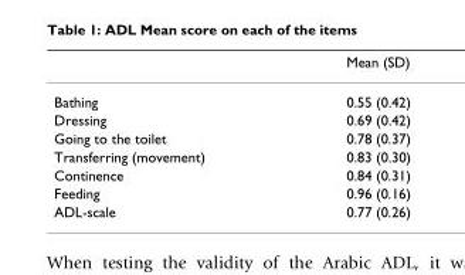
<table><thead><tr><td></td><td>Mean (SD)</td></tr></thead><tbody><tr><td>Bathing</td><td>0.55 (0.42)</td></tr><tr><td>Dressing</td><td>0.69 (0.42)</td></tr><tr><td>Going to the toilet</td><td>0.78 (0.37)</td></tr><tr><td>Transferring (movement)</td><td>0.83 (0.30)</td></tr><tr><td>Continence</td><td>0.84 (0.31)</td></tr><tr><td>Feeding</td><td>0.96 (0.16)</td></tr><tr><td>ADL-scale</td><td>0.77 (0.26)</td></tr></tbody></table>